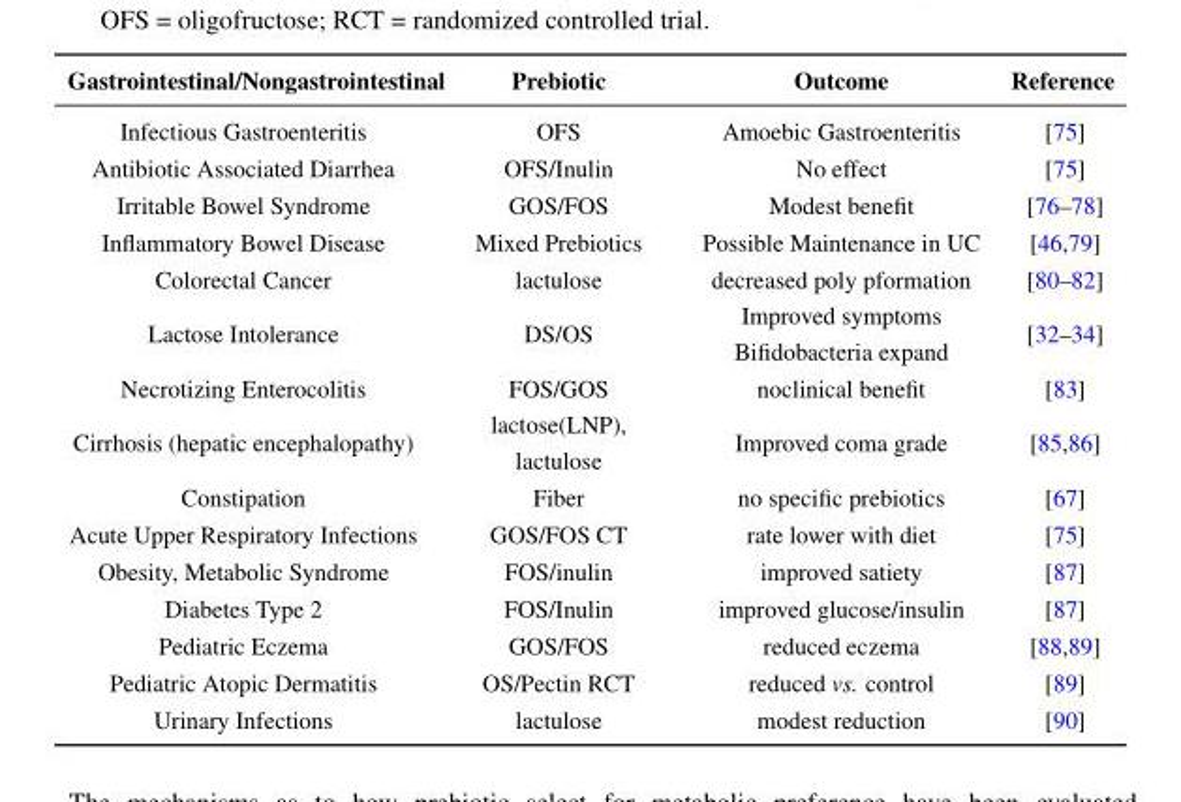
<table><thead><tr><td>Gastrointestinal/Nongastrointestinal</td><td>Prebiotic</td><td>Outcome</td><td>Reference</td></tr></thead><tbody><tr><td>Infectious Gastroenteritis</td><td>OFS</td><td>Amoebic Gastroenteritis</td><td>[75]</td></tr><tr><td>Antibiotic Associated Diarrhea</td><td>OFS/Inulin</td><td>No effect</td><td>[75]</td></tr><tr><td>Irritable Bowel Syndrome</td><td>GOS/FOS</td><td>Modest benefit</td><td>[76–78]</td></tr><tr><td>Inflammatory Bowel Disease</td><td>Mixed Prebiotics</td><td>Possible Maintenance in UC</td><td>[46,79]</td></tr><tr><td>Colorectal Cancer</td><td>lactulose</td><td>decreased poly pformation</td><td>[80–82]</td></tr><tr><td>Lactose Intolerance</td><td>DS/OS</td><td>Improved symptoms Bifidobacteria expand</td><td>[32–34]</td></tr><tr><td>Necrotizing Enterocolitis</td><td>FOS/GOS</td><td>noclinical benefit</td><td>[83]</td></tr><tr><td>Cirrhosis (hepatic encephalopathy)</td><td>lactose(LNP), lactulose</td><td>Improved coma grade</td><td>[85,86]</td></tr><tr><td>Constipation</td><td>Fiber</td><td>no specific prebiotics</td><td>[67]</td></tr><tr><td>Acute Upper Respiratory Infections</td><td>GOS/FOS CT</td><td>rate lower with diet</td><td>[75]</td></tr><tr><td>Obesity, Metabolic Syndrome</td><td>FOS/inulin</td><td>improved satiety</td><td>[87]</td></tr><tr><td>Diabetes Type 2</td><td>FOS/Inulin</td><td>improved glucose/insulin</td><td>[87]</td></tr><tr><td>Pediatric Eczema</td><td>GOS/FOS</td><td>reduced eczema</td><td>[88,89]</td></tr><tr><td>Pediatric Atopic Dermatitis</td><td>OS/Pectin RCT</td><td>reduced vs. control</td><td>[89]</td></tr><tr><td>Urinary Infections</td><td>lactulose</td><td>modest reduction</td><td>[90]</td></tr></tbody></table>